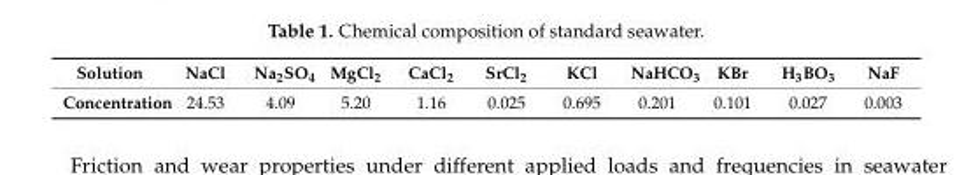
<table><thead><tr><td>Solution</td><td>NaCl</td><td>Na<sub>2</sub>SO<sub>4</sub></td><td>MgCl<sub>2</sub></td><td>CaCl<sub>2</sub></td><td>SrCl<sub>2</sub></td><td>KCl</td><td>NaHCO<sub>3</sub></td><td>KBr</td><td>H<sub>3</sub>BO<sub>3</sub></td><td>NaF</td></tr></thead><tbody><tr><td>Concentration</td><td>24.53</td><td>4.09</td><td>5.20</td><td>1.16</td><td>0.025</td><td>0.695</td><td>0.201</td><td>0.101</td><td>0.027</td><td>0.003</td></tr></tbody></table>